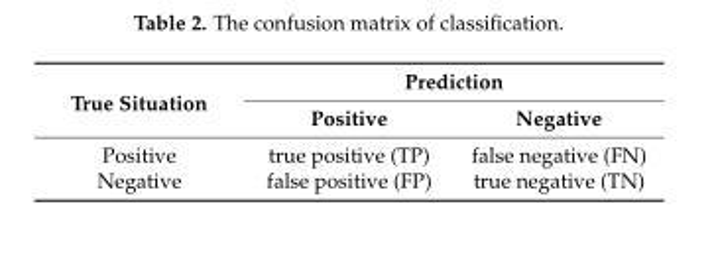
<table><thead><tr><td rowspan="2">True Situation</td><td colspan="2">Prediction</td></tr><tr><td>Positive</td><td>Negative</td></tr></thead><tbody><tr><td>Positive</td><td>true positive (TP)</td><td>false negative (FN)</td></tr><tr><td>Negative</td><td>false positive (FP)</td><td>true negative (TN)</td></tr></tbody></table>